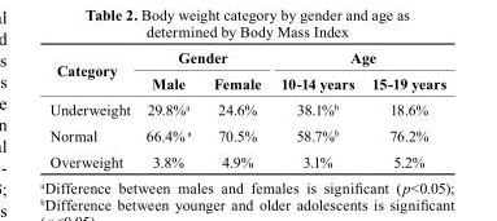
<table><thead><tr><td rowspan="2">category</td><td colspan="2">Gender</td><td colspan="2">Age</td></tr><tr><td>Male</td><td>Female</td><td>10-14 years</td><td>15-19 years</td></tr></thead><tbody><tr><td>Underweight</td><td>29.8%<sup>a</sup></td><td>24.6%</td><td>38.1%<sup>b</sup></td><td>18.6%</td></tr><tr><td>Normal</td><td>66.4% <sup>a</sup></td><td>70.5%</td><td>58.7%<sup>b</sup></td><td>76.2%</td></tr><tr><td>Overweight</td><td>3.8%</td><td>4.9%</td><td>3.1%</td><td>5.2%</td></tr></tbody></table>